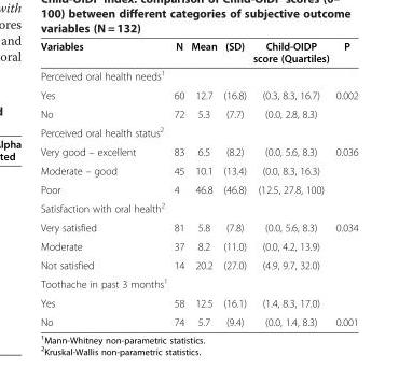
<table><thead><tr><td>Variables</td><td>N</td><td>Mean</td><td>(SD)</td><td>Child-OIDP score (Quartiles)</td><td>P</td></tr></thead><tbody><tr><td colspan="6">Perceived oral health needs<sup>1</sup></td></tr><tr><td>Yes</td><td>60</td><td>12.7</td><td>(16.8)</td><td>(0.3, 8.3, 16.7)</td><td>0.002</td></tr><tr><td>No</td><td>72</td><td>5.3</td><td>(7.7)</td><td>(0.0, 2.8, 8.3)</td><td></td></tr><tr><td colspan="6">Perceived oral health status<sup>2</sup></td></tr><tr><td>Very good – excellent</td><td>83</td><td>6.5</td><td>(8.2)</td><td>(0.0, 5.6, 8.3)</td><td>0.036</td></tr><tr><td>Moderate – good</td><td>45</td><td>10.1</td><td>(13.4)</td><td>(0.0, 8.3, 16.3)</td><td></td></tr><tr><td>Poor</td><td>4</td><td>46.8</td><td>(46.8)</td><td>(12.5, 27.8, 100)</td><td></td></tr><tr><td colspan="6">Satisfaction with oral health<sup>2</sup></td></tr><tr><td>Very satisfied</td><td>81</td><td>5.8</td><td>(7.8)</td><td>(0.0, 5.6, 8.3)</td><td>0.034</td></tr><tr><td>Moderate</td><td>37</td><td>8.2</td><td>(11.0)</td><td>(0.0, 4.2, 13.9)</td><td></td></tr><tr><td>Not satisfied</td><td>14</td><td>20.2</td><td>(27.0)</td><td>(4.9, 9.7, 32.0)</td><td></td></tr><tr><td colspan="6">Toothache in past 3 months<sup>1</sup></td></tr><tr><td>Yes</td><td>58</td><td>12.5</td><td>(16.1)</td><td>(1.4, 8.3, 17.0)</td><td></td></tr><tr><td>No</td><td>74</td><td>5.7</td><td>(9.4)</td><td>(0.0, 1.4, 8.3)</td><td>0.001</td></tr></tbody></table>